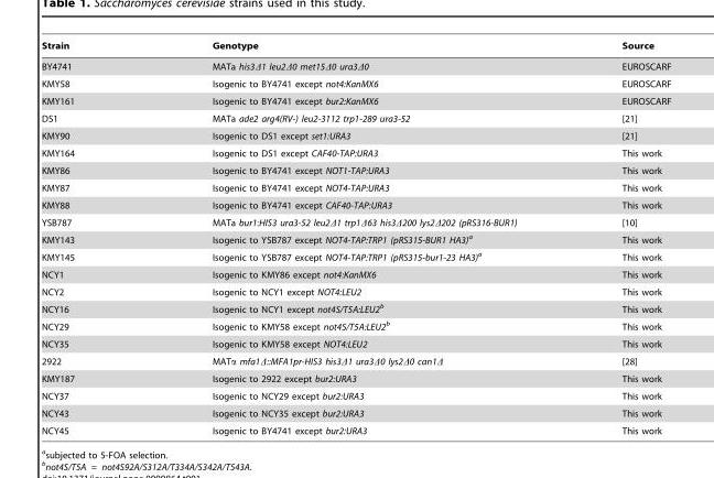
<table><thead><tr><td>Strain</td><td>Genotype</td><td>Source</td></tr></thead><tbody><tr><td>BY4741</td><td>MATa his3Δ1 leu2Δ0 met15Δ0 ura3Δ0</td><td>EUROSCARF</td></tr><tr><td>KMY58</td><td>Isogenic to BY4741 except not4:KanMX6</td><td>EUROSCARF</td></tr><tr><td>KMY161</td><td>Isogenic to BY4741 except bur2:KanMX6</td><td>EUROSCARF</td></tr><tr><td>DS1</td><td>MATa ade2 arg4(RV-) leu2-3112 trp1-289 ura3-52</td><td>[21]</td></tr><tr><td>KMY90</td><td>Isogenic to DS1 except set1:URA3</td><td>[21]</td></tr><tr><td>KMY164</td><td>Isogenic to DS1 except CAF40-TAP:URA3</td><td>This work</td></tr><tr><td>KMY86</td><td>Isogenic to BY4741 except NOT1-TAP:URA3</td><td>This work</td></tr><tr><td>KMY87</td><td>Isogenic to BY4741 except NOT4-TAP:URA3</td><td>This work</td></tr><tr><td>KMY88</td><td>Isogenic to BY4741 except CAF40-TAP:URA3</td><td>This work</td></tr><tr><td>YSB787</td><td>MATa bur1:HIS3 ura3-52 leu2Δ1 trp1Δ63 his3Δ200 lys2Δ202 (pRS316-BUR1)</td><td>[10]</td></tr><tr><td>KMY143</td><td>Isogenic to YSB787 except NOT4-TAP:TRP1 (pRS315-BUR1 HA3)a</td><td>This work</td></tr><tr><td>KMY145</td><td>Isogenic to YSB787 except NOT4-TAP:TRP1 (pRS315-bur1-23 HA3)a</td><td>This work</td></tr><tr><td>NCY1</td><td>Isogenic to KMY86 except not4:KanMX6</td><td>This work</td></tr><tr><td>NCY2</td><td>Isogenic to NCY1 except NOT4:LEU2</td><td>This work</td></tr><tr><td>NCY16</td><td>Isogenic to NCY1 except not4S/T5A:LEU2b</td><td>This work</td></tr><tr><td>NCY29</td><td>Isogenic to KMY58 except not4S/T5A:LEU2b</td><td>This work</td></tr><tr><td>NCY35</td><td>Isogenic to KMY58 except NOT4:LEU2</td><td>This work</td></tr><tr><td>2922</td><td>MATα mfa1Δ::MFA1pr-HIS3 his3Δ1 ura3Δ0 lys2Δ0 can1Δ</td><td>[28]</td></tr><tr><td>KMY187</td><td>Isogenic to 2922 except bur2:URA3</td><td>This work</td></tr><tr><td>NCY37</td><td>Isogenic to NCY29 except bur2:URA3</td><td>This work</td></tr><tr><td>NCY43</td><td>Isogenic to NCY35 except bur2:URA3</td><td>This work</td></tr><tr><td>NCY45</td><td>Isogenic to BY4741 except bur2:URA3</td><td>This work</td></tr></tbody></table>